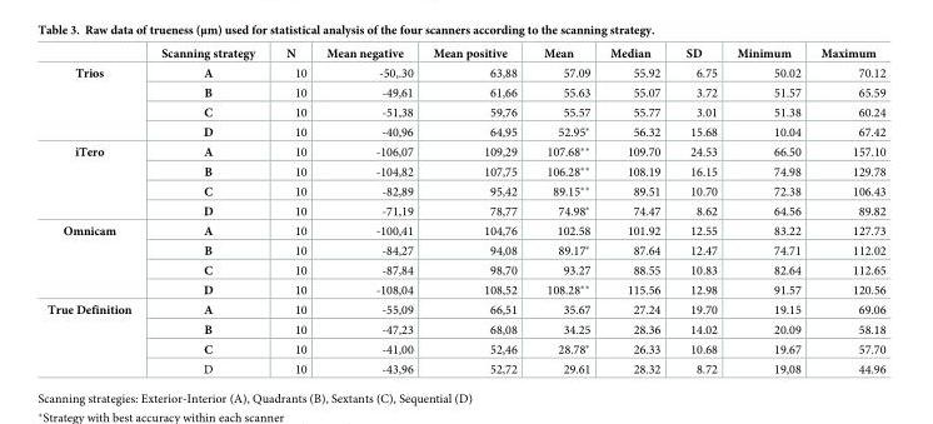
<table><thead><tr><td></td><td>Scanning strategy</td><td>N</td><td>Mean negative</td><td>Mean positive</td><td>Mean</td><td>Median</td><td>SD</td><td>Minimum</td><td>Maximum</td></tr></thead><tbody><tr><td rowspan="4">Trios</td><td>A</td><td>10</td><td>-50,.30</td><td>63,88</td><td>57.09</td><td>55.92</td><td>6.75</td><td>50.02</td><td>70.12</td></tr><tr><td>B</td><td>10</td><td>-49,61</td><td>61,66</td><td>55.63</td><td>55.07</td><td>3.72</td><td>51.57</td><td>65.59</td></tr><tr><td>C</td><td>10</td><td>-51,38</td><td>59,76</td><td>55.57</td><td>55.77</td><td>3.01</td><td>51.38</td><td>60.24</td></tr><tr><td>D</td><td>10</td><td>-40,96</td><td>64,95</td><td>52.95*</td><td>56.32</td><td>15.68</td><td>10.04</td><td>67.42</td></tr><tr><td rowspan="4">iTero</td><td>A</td><td>10</td><td>-106,07</td><td>109,29</td><td>107.68**</td><td>109.70</td><td>24.53</td><td>66.50</td><td>157.10</td></tr><tr><td>B</td><td>10</td><td>-104,82</td><td>107,75</td><td>106.28**</td><td>108.19</td><td>16.15</td><td>74.98</td><td>129.78</td></tr><tr><td>C</td><td>10</td><td>-82,89</td><td>95,42</td><td>89.15**</td><td>89.51</td><td>10.70</td><td>72.38</td><td>106.43</td></tr><tr><td>D</td><td>10</td><td>-71,19</td><td>78,77</td><td>74.98*</td><td>74.47</td><td>8.62</td><td>64.56</td><td>89.82</td></tr><tr><td rowspan="4">Omnicam</td><td>A</td><td>10</td><td>-100,41</td><td>104,76</td><td>102.58</td><td>101.92</td><td>12.55</td><td>83.22</td><td>127.73</td></tr><tr><td>B</td><td>10</td><td>-84,27</td><td>94,08</td><td>89.17*</td><td>87.64</td><td>12.47</td><td>74.71</td><td>112.02</td></tr><tr><td>C</td><td>10</td><td>-87,84</td><td>98,70</td><td>93.27</td><td>88.55</td><td>10.83</td><td>82.64</td><td>112.65</td></tr><tr><td>D</td><td>10</td><td>-108,04</td><td>108,52</td><td>108.28**</td><td>115.56</td><td>12.98</td><td>91.57</td><td>120.56</td></tr><tr><td rowspan="4">True Definition</td><td>A</td><td>10</td><td>-55,09</td><td>66,51</td><td>35.67</td><td>27.24</td><td>19.70</td><td>19.15</td><td>69.06</td></tr><tr><td>B</td><td>10</td><td>-47,23</td><td>68,08</td><td>34.25</td><td>28.36</td><td>14.02</td><td>20.09</td><td>58.18</td></tr><tr><td>C</td><td>10</td><td>-41,00</td><td>52,46</td><td>28.78*</td><td>26.33</td><td>10.68</td><td>19.67</td><td>57.70</td></tr><tr><td>D</td><td>10</td><td>-43,96</td><td>52,72</td><td>29.61</td><td>28.32</td><td>8.72</td><td>19,08</td><td>44.96</td></tr></tbody></table>